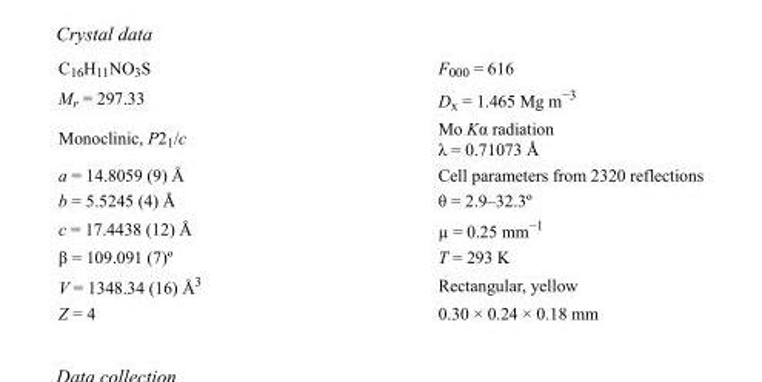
<table><tbody><tr><td>C<sub>16</sub>H<sub>11</sub>NO<sub>3</sub>S</td><td>F000 = 616</td></tr><tr><td>M<sub>r</sub> = 297.33</td><td>D<sub>x</sub> = 1.465 Mg m<sup>−3</sup></td></tr><tr><td>Monoclinic, P2<sub>1</sub>/c</td><td>Mo Kα radiation λ = 0.71073 Å</td></tr><tr><td>a = 14.8059 (9) Å</td><td>Cell parameters from 2320 reflections</td></tr><tr><td>b = 5.5245 (4) Å</td><td>θ = 2.9–32.3º</td></tr><tr><td>c = 17.4438 (12) Å</td><td>µ = 0.25 mm<sup>−1</sup></td></tr><tr><td>β = 109.091 (7)º</td><td>T = 293 K</td></tr><tr><td>V = 1348.34 (16) Å<sup>3</sup></td><td>Rectangular, yellow</td></tr><tr><td>Z = 4</td><td>0.30 × 0.24 × 0.18 mm</td></tr></tbody></table>